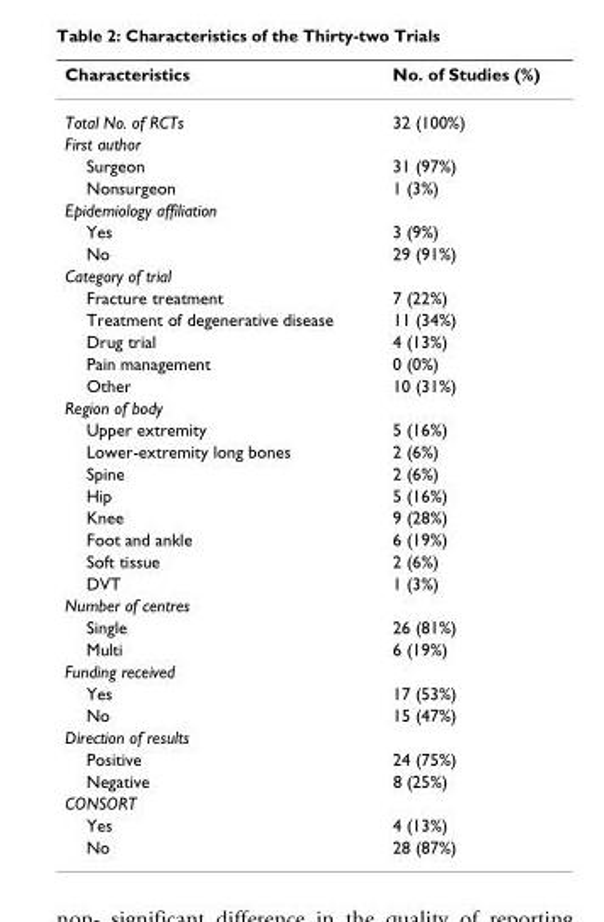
<table><thead><tr><td>Characteristics</td><td>No. of Studies (%)</td></tr></thead><tbody><tr><td>Total No. of RCTs</td><td>32 (100%)</td></tr><tr><td colspan="2">First author</td></tr><tr><td>Surgeon</td><td>31 (97%)</td></tr><tr><td>Nonsurgeon</td><td>1 (3%)</td></tr><tr><td colspan="2">Epidemiology affiliation</td></tr><tr><td>Yes</td><td>3 (9%)</td></tr><tr><td>No</td><td>29 (91%)</td></tr><tr><td colspan="2">Category of trial</td></tr><tr><td>Fracture treatment</td><td>7 (22%)</td></tr><tr><td>Treatment of degenerative disease</td><td>11 (34%)</td></tr><tr><td>Drug trial</td><td>4 (13%)</td></tr><tr><td>Pain management</td><td>0 (0%)</td></tr><tr><td>Other</td><td>10 (31%)</td></tr><tr><td colspan="2">Region of body</td></tr><tr><td>Upper extremity</td><td>5 (16%)</td></tr><tr><td>Lower-extremity long bones</td><td>2 (6%)</td></tr><tr><td>Spine</td><td>2 (6%)</td></tr><tr><td>Hip</td><td>5 (16%)</td></tr><tr><td>Knee</td><td>9 (28%)</td></tr><tr><td>Foot and ankle</td><td>6 (19%)</td></tr><tr><td>Soft tissue</td><td>2 (6%)</td></tr><tr><td>DVT</td><td>1 (3%)</td></tr><tr><td colspan="2">Number of centres</td></tr><tr><td>Single</td><td>26 (81%)</td></tr><tr><td>Multi</td><td>6 (19%)</td></tr><tr><td colspan="2">Funding received</td></tr><tr><td>Yes</td><td>17 (53%)</td></tr><tr><td>No</td><td>15 (47%)</td></tr><tr><td colspan="2">Direction of results</td></tr><tr><td>Positive</td><td>24 (75%)</td></tr><tr><td>Negative</td><td>8 (25%)</td></tr><tr><td colspan="2">CONSORT</td></tr><tr><td>Yes</td><td>4 (13%)</td></tr><tr><td>No</td><td>28 (87%)</td></tr></tbody></table>